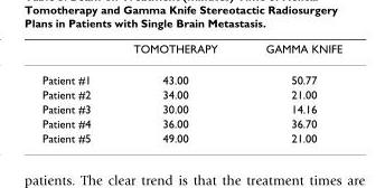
<table><thead><tr><td></td><td>TOMOTHERAPY</td><td>GAMMA KNIFE</td></tr></thead><tbody><tr><td>Patient #1</td><td>43.00</td><td>50.77</td></tr><tr><td>Patient #2</td><td>34.00</td><td>21.00</td></tr><tr><td>Patient #3</td><td>30.00</td><td>14.16</td></tr><tr><td>Patient #4</td><td>36.00</td><td>36.70</td></tr><tr><td>Patient #5</td><td>49.00</td><td>21.00</td></tr></tbody></table>